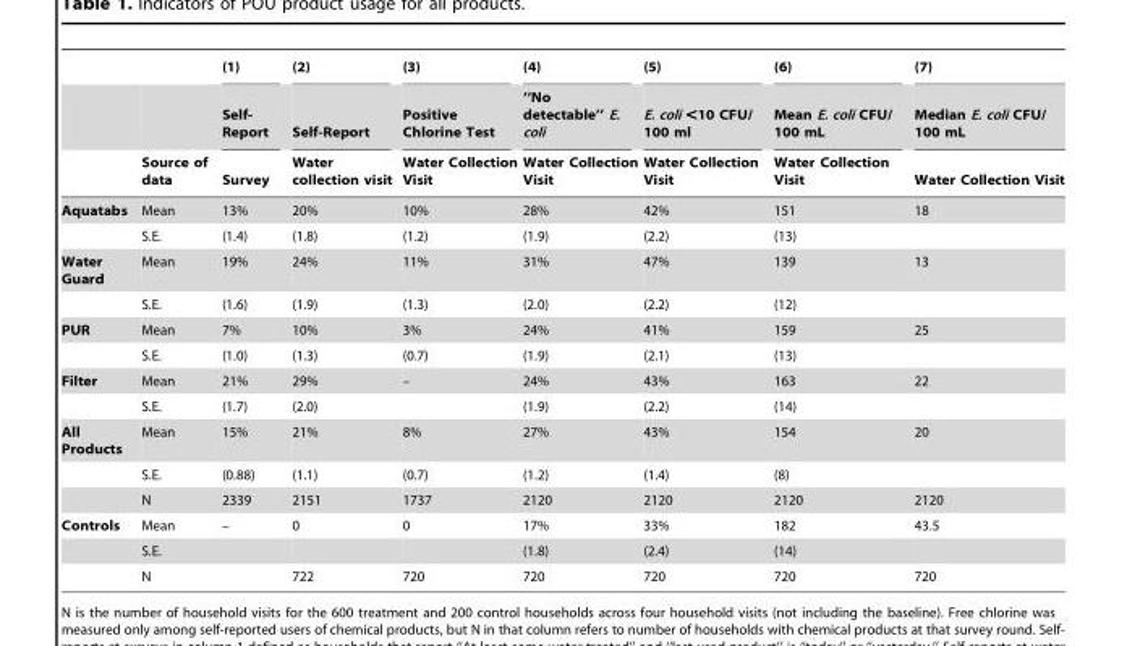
<table><thead><tr><td rowspan="3"></td><td rowspan="3">Source of data</td><td rowspan="3">(1) Self- Report Survey</td><td rowspan="3">(2) Self-Report Water collection visit</td><td rowspan="3">(3) Positive Chlorine Test Water Collection Visit</td><td rowspan="3">(4) ‘‘No detectable’’ E. coli Water Collection Visit</td><td rowspan="3">(5) E. coli &lt;10 CFU/ 100 ml Water Collection Visit</td><td rowspan="3">(6) Mean E. coli CFU/ 100 mL Water Collection Visit</td><td rowspan="3">(7) Median E. coli CFU/ 100 mL Water Collection Visit</td></tr><tr></tr><tr></tr></thead><tbody><tr><td rowspan="2">Aquatabs</td><td>Mean</td><td>13%</td><td>20%</td><td>10%</td><td>28%</td><td>42%</td><td>151</td><td>18</td></tr><tr><td>S.E.</td><td>(1.4)</td><td>(1.8)</td><td>(1.2)</td><td>(1.9)</td><td>(2.2)</td><td>(13)</td><td></td></tr><tr><td rowspan="2">Water Guard</td><td>Mean</td><td>19%</td><td>24%</td><td>11%</td><td>31%</td><td>47%</td><td>139</td><td>13</td></tr><tr><td>S.E.</td><td>(1.6)</td><td>(1.9)</td><td>(1.3)</td><td>(2.0)</td><td>(2.2)</td><td>(12)</td><td></td></tr><tr><td rowspan="2">PUR</td><td>Mean</td><td>7%</td><td>10%</td><td>3%</td><td>24%</td><td>41%</td><td>159</td><td>25</td></tr><tr><td>S.E.</td><td>(1.0)</td><td>(1.3)</td><td>(0.7)</td><td>(1.9)</td><td>(2.1)</td><td>(13)</td><td></td></tr><tr><td rowspan="2">Filter</td><td>Mean</td><td>21%</td><td>29%</td><td>–</td><td>24%</td><td>43%</td><td>163</td><td>22</td></tr><tr><td>S.E.</td><td>(1.7)</td><td>(2.0)</td><td></td><td>(1.9)</td><td>(2.2)</td><td>(14)</td><td></td></tr><tr><td rowspan="3">All Products</td><td>Mean</td><td>15%</td><td>21%</td><td>8%</td><td>27%</td><td>43%</td><td>154</td><td>20</td></tr><tr><td>S.E.</td><td>(0.88)</td><td>(1.1)</td><td>(0.7)</td><td>(1.2)</td><td>(1.4)</td><td>(8)</td><td></td></tr><tr><td>N</td><td>2339</td><td>2151</td><td>1737</td><td>2120</td><td>2120</td><td>2120</td><td>2120</td></tr><tr><td rowspan="3">Controls</td><td>Mean</td><td>–</td><td>0</td><td>0</td><td>17%</td><td>33%</td><td>182</td><td>43.5</td></tr><tr><td>S.E.</td><td></td><td></td><td></td><td>(1.8)</td><td>(2.4)</td><td>(14)</td><td></td></tr><tr><td>N</td><td></td><td>722</td><td>720</td><td>720</td><td>720</td><td>720</td><td>720</td></tr></tbody></table>